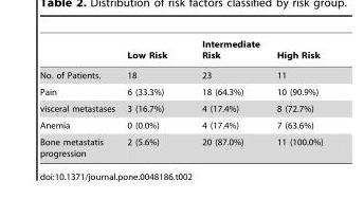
<table><thead><tr><td></td><td>Low Risk</td><td>Intermediate Risk</td><td>High Risk</td></tr></thead><tbody><tr><td>No. of Patients.</td><td>18</td><td>23</td><td>11</td></tr><tr><td>Pain</td><td>6 (33.3%)</td><td>18 (64.3%)</td><td>10 (90.9%)</td></tr><tr><td>visceral metastases</td><td>3 (16.7%)</td><td>4 (17.4%)</td><td>8 (72.7%)</td></tr><tr><td>Anemia</td><td>0 (0.0%)</td><td>4 (17.4%)</td><td>7 (63.6%)</td></tr><tr><td>Bone metastatis progression</td><td>2 (5.6%)</td><td>20 (87.0%)</td><td>11 (100.0%)</td></tr></tbody></table>